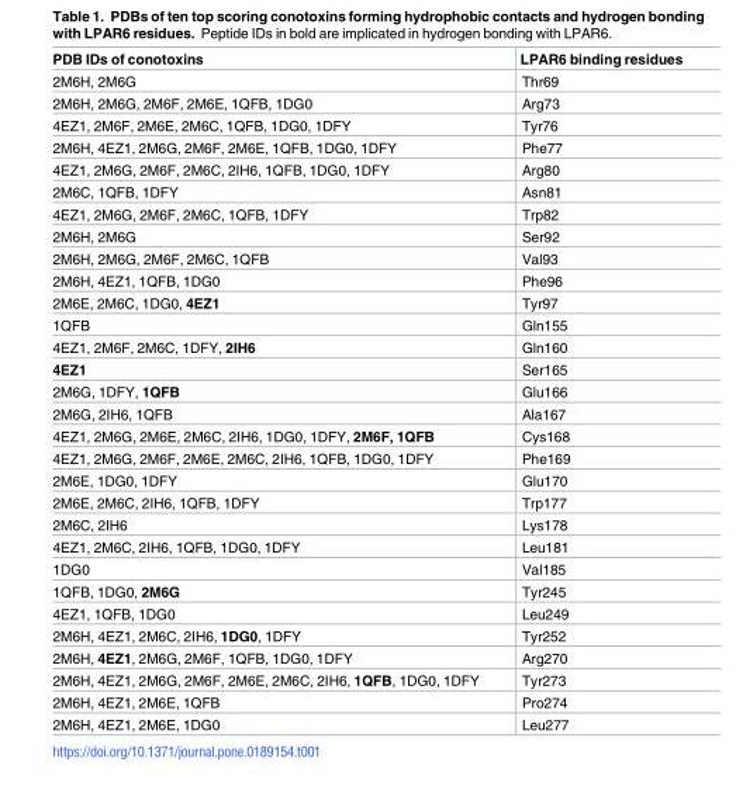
<table><thead><tr><td>PDB IDs of conotoxins</td><td>LPAR6 binding residues</td></tr></thead><tbody><tr><td>2M6H, 2M6G</td><td>Thr69</td></tr><tr><td>2M6H, 2M6G, 2M6F, 2M6E, 1QFB, 1DG0</td><td>Arg73</td></tr><tr><td>4EZ1, 2M6F, 2M6E, 2M6C, 1QFB, 1DG0, 1DFY</td><td>Tyr76</td></tr><tr><td>2M6H, 4EZ1, 2M6G, 2M6F, 2M6E, 1QFB, 1DG0, 1DFY</td><td>Phe77</td></tr><tr><td>4EZ1, 2M6G, 2M6F, 2M6C, 2IH6, 1QFB, 1DG0, 1DFY</td><td>Arg80</td></tr><tr><td>2M6C, 1QFB, 1DFY</td><td>Asn81</td></tr><tr><td>4EZ1, 2M6G, 2M6F, 2M6C, 1QFB, 1DFY</td><td>Trp82</td></tr><tr><td>2M6H, 2M6G</td><td>Ser92</td></tr><tr><td>2M6H, 2M6G, 2M6F, 2M6C, 1QFB</td><td>Val93</td></tr><tr><td>2M6H, 4EZ1, 1QFB, 1DG0</td><td>Phe96</td></tr><tr><td>2M6E, 2M6C, 1DG0, 4EZ1</td><td>Tyr97</td></tr><tr><td>1QFB</td><td>Gln155</td></tr><tr><td>4EZ1, 2M6F, 2M6C, 1DFY, 2IH6</td><td>Gln160</td></tr><tr><td>4EZ1</td><td>Ser165</td></tr><tr><td>2M6G, 1DFY, 1QFB</td><td>Glu166</td></tr><tr><td>2M6G, 2IH6, 1QFB</td><td>Ala167</td></tr><tr><td>4EZ1, 2M6G, 2M6E, 2M6C, 2IH6, 1DG0, 1DFY, 2M6F, 1QFB</td><td>Cys168</td></tr><tr><td>4EZ1, 2M6G, 2M6F, 2M6E, 2M6C, 2IH6, 1QFB, 1DG0, 1DFY</td><td>Phe169</td></tr><tr><td>2M6E, 1DG0, 1DFY</td><td>Glu170</td></tr><tr><td>2M6E, 2M6C, 2IH6, 1QFB, 1DFY</td><td>Trp177</td></tr><tr><td>2M6C, 2IH6</td><td>Lys178</td></tr><tr><td>4EZ1, 2M6C, 2IH6, 1QFB, 1DG0, 1DFY</td><td>Leu181</td></tr><tr><td>1DG0</td><td>Val185</td></tr><tr><td>1QFB, 1DG0, 2M6G</td><td>Tyr245</td></tr><tr><td>4EZ1, 1QFB, 1DG0</td><td>Leu249</td></tr><tr><td>2M6H, 4EZ1, 2M6C, 2IH6, 1DG0, 1DFY</td><td>Tyr252</td></tr><tr><td>2M6H, 4EZ1, 2M6G, 2M6F, 1QFB, 1DG0, 1DFY</td><td>Arg270</td></tr><tr><td>2M6H, 4EZ1, 2M6G, 2M6F, 2M6E, 2M6C, 2IH6, 1QFB, 1DG0, 1DFY</td><td>Tyr273</td></tr><tr><td>2M6H, 4EZ1, 2M6E, 1QFB</td><td>Pro274</td></tr><tr><td>2M6H, 4EZ1, 2M6E, 1DG0</td><td>Leu277</td></tr></tbody></table>